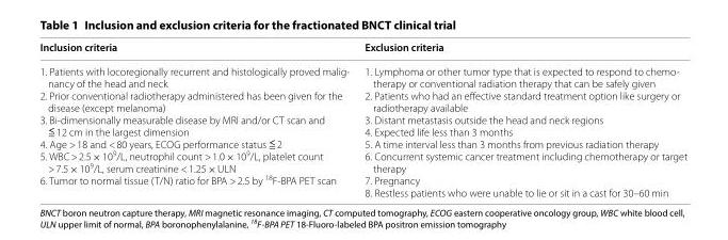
<table><thead><tr><td>Inclusion criteria</td><td>Exclusion criteria</td></tr></thead><tbody><tr><td>1. Patients with locoregionally recurrent and histologically proved malig‑ nancy of the head and neck 2. Prior conventional radiotherapy administered has been given for the disease (except melanoma) 3. Bi‑dimensionally measurable disease by MRI and/or CT scan and ≦ 12 cm in the largest dimension 4. Age &gt; 18 and &lt; 80 years, ECOG performance status ≦ 2 5. WBC &gt; 2.5 × 109/L, neutrophil count &gt; 1.0 × 109/L, platelet count &gt; 7.5 × 109/L, serum creatinine &lt; 1.25 × ULN 6. Tumor to normal tissue (T/N) ratio for BPA &gt; 2.5 by 18F‑BPA PET scan</td><td>1. Lymphoma or other tumor type that is expected to respond to chemo‑ therapy or conventional radiation therapy that can be safely given 2. Patients who had an effective standard treatment option like surgery or radiotherapy available 3. Distant metastasis outside the head and neck regions 4. Expected life less than 3 months 5. A time interval less than 3 months from previous radiation therapy 6. Concurrent systemic cancer treatment including chemotherapy or target therapy 7. Pregnancy 8. Restless patients who were unable to lie or sit in a cast for 30–60 min</td></tr></tbody></table>